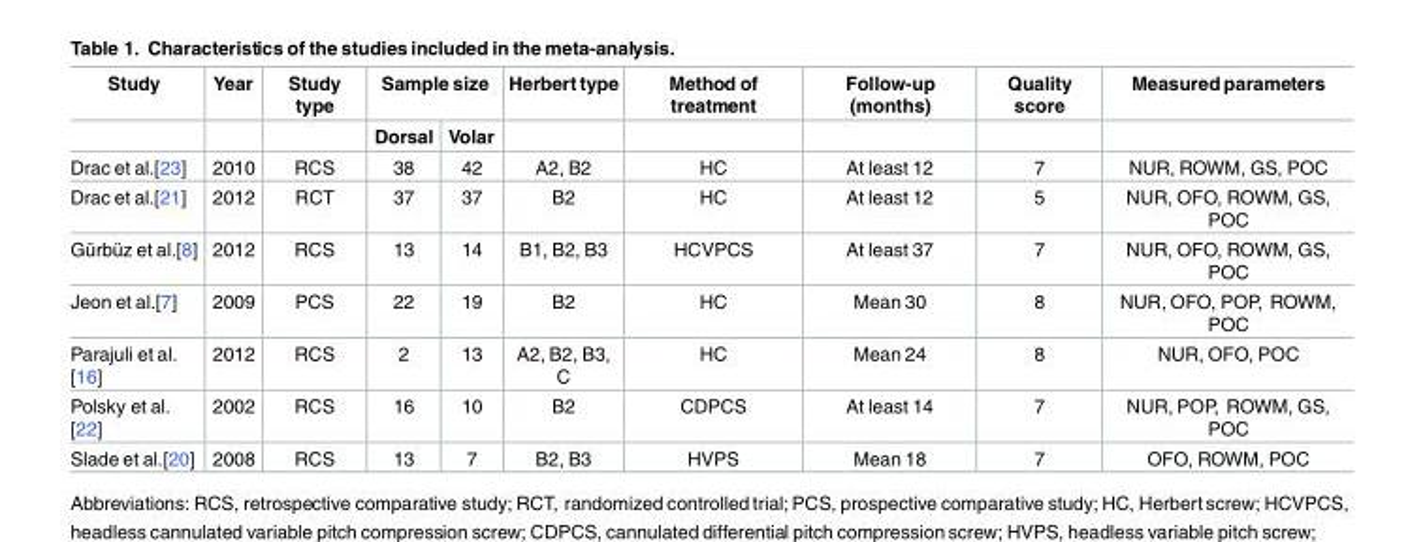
<table><thead><tr><td rowspan="2">Study</td><td rowspan="2">Year</td><td rowspan="2">Study type</td><td colspan="2">Sample size</td><td rowspan="2">Herbert type</td><td rowspan="2">Method of treatment</td><td rowspan="2">Follow-up (months)</td><td rowspan="2">Quality score</td><td rowspan="2">Measured parameters</td></tr><tr><td>Dorsal</td><td>Volar</td></tr></thead><tbody><tr><td>Drac et al.[23]</td><td>2010</td><td>RCS</td><td>38</td><td>42</td><td>A2, B2</td><td>HC</td><td>At least 12</td><td>7</td><td>NUR, ROWM, GS, POC</td></tr><tr><td>Drac et al.[21]</td><td>2012</td><td>RCT</td><td>37</td><td>37</td><td>B2</td><td>HC</td><td>At least 12</td><td>5</td><td>NUR, OFO, ROWM, GS, POC</td></tr><tr><td>Gürbüz et al.[8]</td><td>2012</td><td>RCS</td><td>13</td><td>14</td><td>B1, B2, B3</td><td>HCVPCS</td><td>At least 37</td><td>7</td><td>NUR, OFO, ROWM, GS, POC</td></tr><tr><td>Jeon et al.[7]</td><td>2009</td><td>PCS</td><td>22</td><td>19</td><td>B2</td><td>HC</td><td>Mean 30</td><td>8</td><td>NUR, OFO, POP, ROWM, POC</td></tr><tr><td>Parajuli et al. [16]</td><td>2012</td><td>RCS</td><td>2</td><td>13</td><td>A2, B2, B3, C</td><td>HC</td><td>Mean 24</td><td>8</td><td>NUR, OFO, POC</td></tr><tr><td>Polsky et al. [22]</td><td>2002</td><td>RCS</td><td>16</td><td>10</td><td>B2</td><td>CDPCS</td><td>At least 14</td><td>7</td><td>NUR, POP, ROWM, GS, POC</td></tr><tr><td>Slade et al.[20]</td><td>2008</td><td>RCS</td><td>13</td><td>7</td><td>B2, B3</td><td>HVPS</td><td>Mean 18</td><td>7</td><td>OFO, ROWM, POC</td></tr></tbody></table>